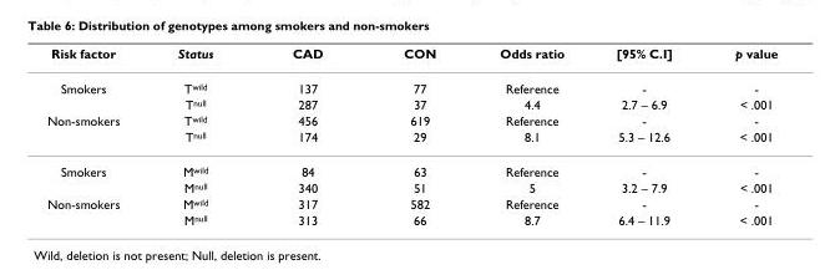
<table><thead><tr><td>Risk factor</td><td>Status</td><td>CAD</td><td>CON</td><td>Odds ratio</td><td>[95% C.I]</td><td>p value</td></tr></thead><tbody><tr><td rowspan="2">Smokers</td><td>T<sup>wild</sup></td><td>137</td><td>77</td><td>Reference</td><td>-</td><td>-</td></tr><tr><td>T<sup>null</sup></td><td>287</td><td>37</td><td>4.4</td><td>2.7 – 6.9</td><td>&lt; .001</td></tr><tr><td rowspan="2">Non-smokers</td><td>T<sup>wild</sup></td><td>456</td><td>619</td><td>Reference</td><td>-</td><td>-</td></tr><tr><td>T<sup>null</sup></td><td>174</td><td>29</td><td>8.1</td><td>5.3 – 12.6</td><td>&lt; .001</td></tr><tr><td rowspan="2">Smokers</td><td>M<sup>wild</sup></td><td>84</td><td>63</td><td>Reference</td><td>-</td><td>-</td></tr><tr><td>M<sup>null</sup></td><td>340</td><td>51</td><td>5</td><td>3.2 – 7.9</td><td>&lt; .001</td></tr><tr><td rowspan="2">Non-smokers</td><td>M<sup>wild</sup></td><td>317</td><td>582</td><td>Reference</td><td>-</td><td>-</td></tr><tr><td>M<sup>null</sup></td><td>313</td><td>66</td><td>8.7</td><td>6.4 – 11.9</td><td>&lt; .001</td></tr></tbody></table>